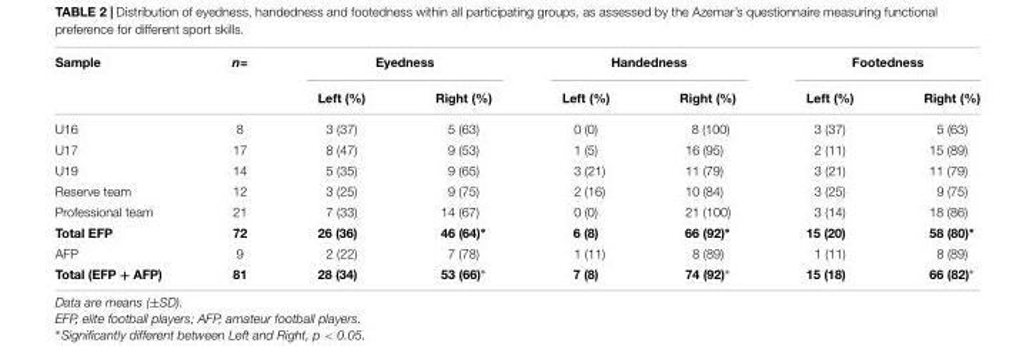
<table><thead><tr><td rowspan="2">Sample</td><td rowspan="2">n=</td><td colspan="2">Eyedness</td><td colspan="2">Handedness</td><td colspan="2">Footedness</td></tr><tr><td>Left (%)</td><td>Right (%)</td><td>Left (%)</td><td>Right (%)</td><td>Left (%)</td><td>Right (%)</td></tr></thead><tbody><tr><td>U16</td><td>8</td><td>3 (37)</td><td>5 (63)</td><td>0 (0)</td><td>8 (100)</td><td>3 (37)</td><td>5 (63)</td></tr><tr><td>U17</td><td>17</td><td>8 (47)</td><td>9 (53)</td><td>1 (5)</td><td>16 (95)</td><td>2 (11)</td><td>15 (89)</td></tr><tr><td>U19</td><td>14</td><td>5 (35)</td><td>9 (65)</td><td>3 (21)</td><td>11 (79)</td><td>3 (21)</td><td>11 (79)</td></tr><tr><td>Reserve team</td><td>12</td><td>3 (25)</td><td>9 (75)</td><td>2 (16)</td><td>10 (84)</td><td>3 (25)</td><td>9 (75)</td></tr><tr><td>Professional team</td><td>21</td><td>7 (33)</td><td>14 (67)</td><td>0 (0)</td><td>21 (100)</td><td>3 (14)</td><td>18 (86)</td></tr><tr><td>Total EFP</td><td>72</td><td>26 (36)</td><td>46 (64)∗</td><td>6 (8)</td><td>66 (92)∗</td><td>15 (20)</td><td>58 (80)∗</td></tr><tr><td>AFP</td><td>9</td><td>2 (22)</td><td>7 (78)</td><td>1 (11)</td><td>8 (89)</td><td>1 (11)</td><td>8 (89)</td></tr><tr><td>Total (EFP + AFP)</td><td>81</td><td>28 (34)</td><td>53 (66)∗</td><td>7 (8)</td><td>74 (92)∗</td><td>15 (18)</td><td>66 (82)∗</td></tr></tbody></table>